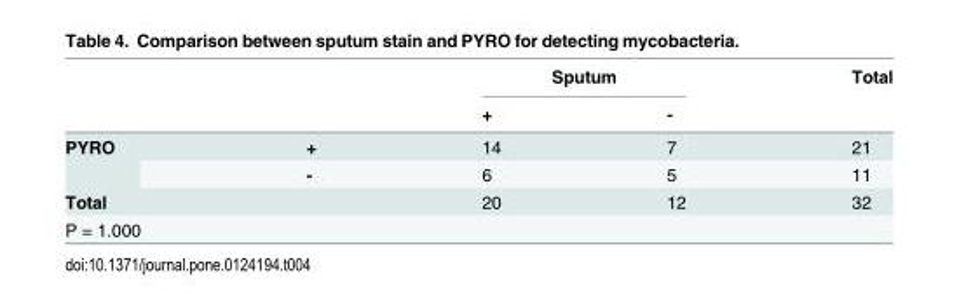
<table><thead><tr><td rowspan="2"></td><td rowspan="2"></td><td colspan="2">Sputum</td><td rowspan="2">Total</td></tr><tr><td>+</td><td>-</td></tr></thead><tbody><tr><td rowspan="2">PYRO</td><td>+</td><td>14</td><td>7</td><td>21</td></tr><tr><td>-</td><td>6</td><td>5</td><td>11</td></tr><tr><td>Total</td><td></td><td>20</td><td>12</td><td>32</td></tr><tr><td>P = 1.000</td><td></td><td></td><td></td><td></td></tr></tbody></table>